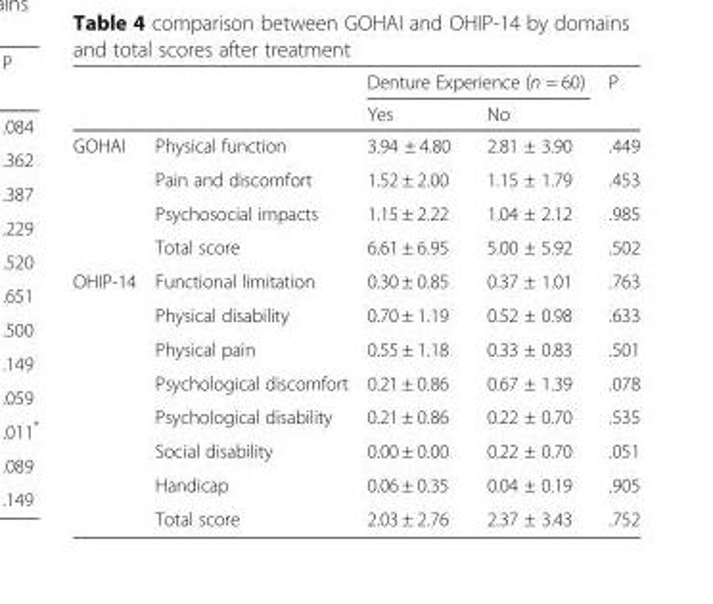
<table><thead><tr><td rowspan="2"></td><td rowspan="2"></td><td colspan="2">Denture Experience (n = 60)</td><td rowspan="2">P</td></tr><tr><td>Yes</td><td>No</td></tr></thead><tbody><tr><td rowspan="4">GOHAI</td><td>Physical function</td><td>3.94 ± 4.80</td><td>2.81 ± 3.90</td><td>.449</td></tr><tr><td>Pain and discomfort</td><td>1.52 ± 2.00</td><td>1.15 ± 1.79</td><td>.453</td></tr><tr><td>Psychosocial impacts</td><td>1.15 ± 2.22</td><td>1.04 ± 2.12</td><td>.985</td></tr><tr><td>Total score</td><td>6.61 ± 6.95</td><td>5.00 ± 5.92</td><td>.502</td></tr><tr><td rowspan="8">OHIP-14</td><td>Functional limitation</td><td>0.30 ± 0.85</td><td>0.37 ± 1.01</td><td>.763</td></tr><tr><td>Physical disability</td><td>0.70 ± 1.19</td><td>0.52 ± 0.98</td><td>.633</td></tr><tr><td>Physical pain</td><td>0.55 ± 1.18</td><td>0.33 ± 0.83</td><td>.501</td></tr><tr><td>Psychological discomfort</td><td>0.21 ± 0.86</td><td>0.67 ± 1.39</td><td>.078</td></tr><tr><td>Psychological disability</td><td>0.21 ± 0.86</td><td>0.22 ± 0.70</td><td>.535</td></tr><tr><td>Social disability</td><td>0.00 ± 0.00</td><td>0.22 ± 0.70</td><td>.051</td></tr><tr><td>Handicap</td><td>0.06 ± 0.35</td><td>0.04 ± 0.19</td><td>.905</td></tr><tr><td>Total score</td><td>2.03 ± 2.76</td><td>2.37 ± 3.43</td><td>.752</td></tr></tbody></table>